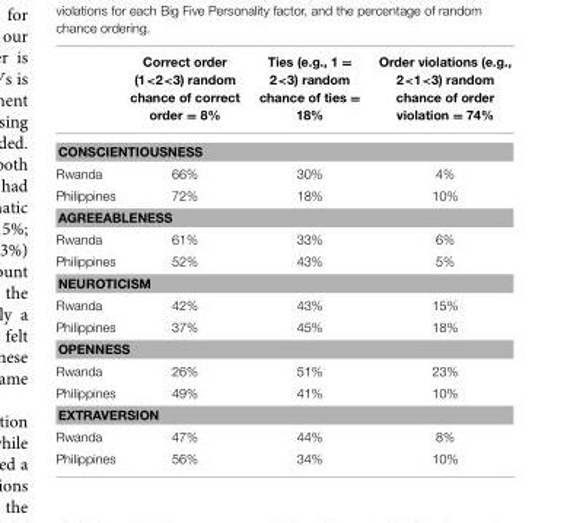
<table><thead><tr><td></td><td>Correct order (1&lt;2&lt;3) random chance of correct order = 8%</td><td>Ties (e.g., 1 = 2&lt;3) random chance of ties = 18%</td><td>Order violations (e.g., 2&lt;1&lt;3) random chance of order violation = 74%</td></tr></thead><tbody><tr><td colspan="4">CONSCIENTIOUSNESS</td></tr><tr><td>Rwanda</td><td>66%</td><td>30%</td><td>4%</td></tr><tr><td>Philippines</td><td>72%</td><td>18%</td><td>10%</td></tr><tr><td colspan="4">AGREEABLENESS</td></tr><tr><td>Rwanda</td><td>61%</td><td>33%</td><td>6%</td></tr><tr><td>Philippines</td><td>52%</td><td>43%</td><td>5%</td></tr><tr><td colspan="4">NEUROTICISM</td></tr><tr><td>Rwanda</td><td>42%</td><td>43%</td><td>15%</td></tr><tr><td>Philippines</td><td>37%</td><td>45%</td><td>18%</td></tr><tr><td colspan="4">OPENNESS</td></tr><tr><td>Rwanda</td><td>26%</td><td>51%</td><td>23%</td></tr><tr><td>Philippines</td><td>49%</td><td>41%</td><td>10%</td></tr><tr><td colspan="4">EXTRAVERSION</td></tr><tr><td>Rwanda</td><td>47%</td><td>44%</td><td>8%</td></tr><tr><td>Philippines</td><td>56%</td><td>34%</td><td>10%</td></tr></tbody></table>